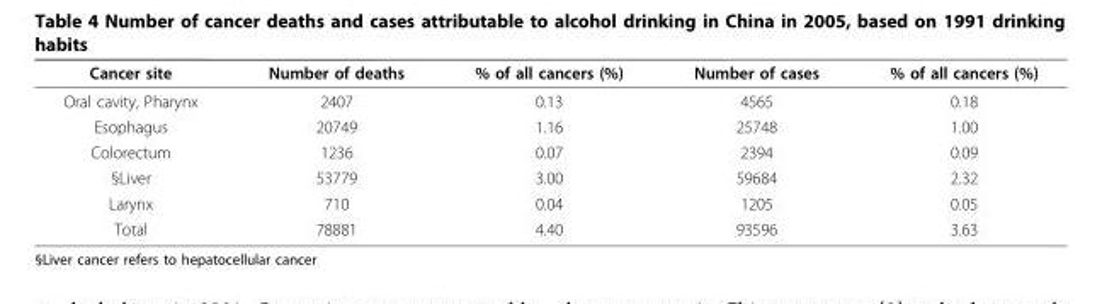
<table><thead><tr><td>Cancer site</td><td>Number of deaths</td><td>% of all cancers (%)</td><td>Number of cases</td><td>% of all cancers (%)</td></tr></thead><tbody><tr><td>Oral cavity, Pharynx</td><td>2407</td><td>0.13</td><td>4565</td><td>0.18</td></tr><tr><td>Esophagus</td><td>20749</td><td>1.16</td><td>25748</td><td>1.00</td></tr><tr><td>Colorectum</td><td>1236</td><td>0.07</td><td>2394</td><td>0.09</td></tr><tr><td>§Liver</td><td>53779</td><td>3.00</td><td>59684</td><td>2.32</td></tr><tr><td>Larynx</td><td>710</td><td>0.04</td><td>1205</td><td>0.05</td></tr><tr><td>Total</td><td>78881</td><td>4.40</td><td>93596</td><td>3.63</td></tr></tbody></table>